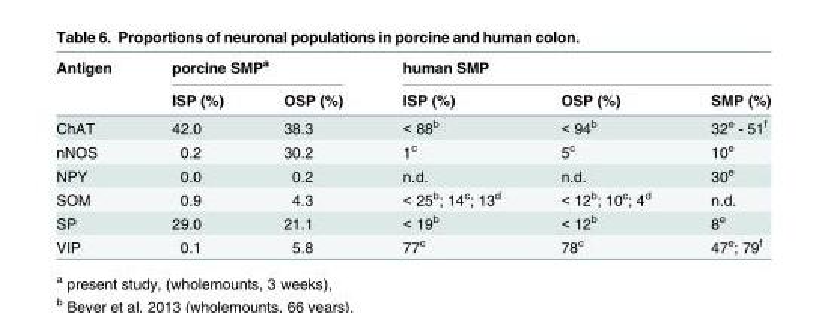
<table><thead><tr><td rowspan="2">Antigen</td><td colspan="2">porcine SMP<sup>a</sup></td><td colspan="3">human SMP</td></tr><tr><td>ISP (%)</td><td>OSP (%)</td><td>ISP (%)</td><td>OSP (%)</td><td>SMP (%)</td></tr></thead><tbody><tr><td>ChAT</td><td>42.0</td><td>38.3</td><td>&lt; 88<sup>b</sup></td><td>&lt; 94<sup>b</sup></td><td>32<sup>e</sup> - 51<sup>f</sup></td></tr><tr><td>nNOS</td><td>0.2</td><td>30.2</td><td>1<sup>c</sup></td><td>5<sup>c</sup></td><td>10<sup>e</sup></td></tr><tr><td>NPY</td><td>0.0</td><td>0.2</td><td>n.d.</td><td>n.d.</td><td>30<sup>e</sup></td></tr><tr><td>SOM</td><td>0.9</td><td>4.3</td><td>&lt; 25<sup>b</sup>; 14<sup>c</sup>; 13<sup>d</sup></td><td>&lt; 12<sup>b</sup>; 10<sup>c</sup>; 4<sup>d</sup></td><td>n.d.</td></tr><tr><td>SP</td><td>29.0</td><td>21.1</td><td>&lt; 19<sup>b</sup></td><td>&lt; 12<sup>b</sup></td><td>8<sup>e</sup></td></tr><tr><td>VIP</td><td>0.1</td><td>5.8</td><td>77<sup>c</sup></td><td>78<sup>c</sup></td><td>47<sup>e</sup>; 79<sup>f</sup></td></tr></tbody></table>